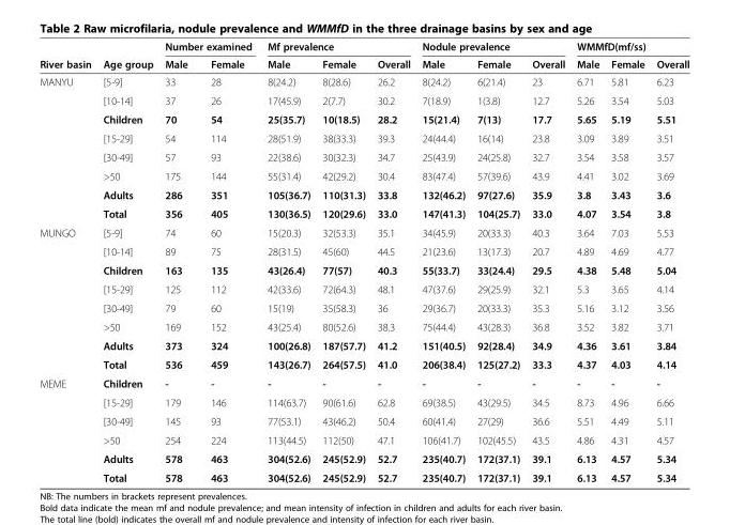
<table><thead><tr><td rowspan="2">River basin</td><td rowspan="2">Age group</td><td colspan="2">Number examined</td><td colspan="3">Mf prevalence</td><td colspan="3">Nodule prevalence</td><td colspan="3">WMMfD(mf/ss)</td></tr><tr><td>Male</td><td>Female</td><td>Male</td><td>Female</td><td>Overall</td><td>Male</td><td>Female</td><td>Overall</td><td>Male</td><td>Female</td><td>Overall</td></tr></thead><tbody><tr><td rowspan="8">MANYU</td><td>[5-9]</td><td>33</td><td>28</td><td>8(24.2)</td><td>8(28.6)</td><td>26.2</td><td>8(24.2)</td><td>6(21.4)</td><td>23</td><td>6.71</td><td>5.81</td><td>6.23</td></tr><tr><td>[10-14]</td><td>37</td><td>26</td><td>17(45.9)</td><td>2(7.7)</td><td>30.2</td><td>7(18.9)</td><td>1(3.8)</td><td>12.7</td><td>5.26</td><td>3.54</td><td>5.03</td></tr><tr><td>Children</td><td>70</td><td>54</td><td>25(35.7)</td><td>10(18.5)</td><td>28.2</td><td>15(21.4)</td><td>7(13)</td><td>17.7</td><td>5.65</td><td>5.19</td><td>5.51</td></tr><tr><td>[15-29]</td><td>54</td><td>114</td><td>28(51.9)</td><td>38(33.3)</td><td>39.3</td><td>24(44.4)</td><td>16(14)</td><td>23.8</td><td>3.09</td><td>3.89</td><td>3.51</td></tr><tr><td>[30-49]</td><td>57</td><td>93</td><td>22(38.6)</td><td>30(32.3)</td><td>34.7</td><td>25(43.9)</td><td>24(25.8)</td><td>32.7</td><td>3.54</td><td>3.58</td><td>3.57</td></tr><tr><td>&gt;50</td><td>175</td><td>144</td><td>55(31.4)</td><td>42(29.2)</td><td>30.4</td><td>83(47.4)</td><td>57(39.6)</td><td>43.9</td><td>4.41</td><td>3.02</td><td>3.69</td></tr><tr><td>Adults</td><td>286</td><td>351</td><td>105(36.7)</td><td>110(31.3)</td><td>33.8</td><td>132(46.2)</td><td>97(27.6)</td><td>35.9</td><td>3.8</td><td>3.43</td><td>3.6</td></tr><tr><td>Total</td><td>356</td><td>405</td><td>130(36.5)</td><td>120(29.6)</td><td>33.0</td><td>147(41.3)</td><td>104(25.7)</td><td>33.0</td><td>4.07</td><td>3.54</td><td>3.8</td></tr><tr><td rowspan="8">MUNGO</td><td>[5-9]</td><td>74</td><td>60</td><td>15(20.3)</td><td>32(53.3)</td><td>35.1</td><td>34(45.9)</td><td>20(33.3)</td><td>40.3</td><td>3.64</td><td>7.03</td><td>5.53</td></tr><tr><td>[10-14]</td><td>89</td><td>75</td><td>28(31.5)</td><td>45(60)</td><td>44.5</td><td>21(23.6)</td><td>13(17.3)</td><td>20.7</td><td>4.89</td><td>4.69</td><td>4.77</td></tr><tr><td>Children</td><td>163</td><td>135</td><td>43(26.4)</td><td>77(57)</td><td>40.3</td><td>55(33.7)</td><td>33(24.4)</td><td>29.5</td><td>4.38</td><td>5.48</td><td>5.04</td></tr><tr><td>[15-29]</td><td>125</td><td>112</td><td>42(33.6)</td><td>72(64.3)</td><td>48.1</td><td>47(37.6)</td><td>29(25.9)</td><td>32.1</td><td>5.3</td><td>3.65</td><td>4.14</td></tr><tr><td>[30-49]</td><td>79</td><td>60</td><td>15(19)</td><td>35(58.3)</td><td>36</td><td>29(36.7)</td><td>20(33.3)</td><td>35.3</td><td>5.16</td><td>3.12</td><td>3.56</td></tr><tr><td>&gt;50</td><td>169</td><td>152</td><td>43(25.4)</td><td>80(52.6)</td><td>38.3</td><td>75(44.4)</td><td>43(28.3)</td><td>36.8</td><td>3.52</td><td>3.82</td><td>3.71</td></tr><tr><td>Adults</td><td>373</td><td>324</td><td>100(26.8)</td><td>187(57.7)</td><td>41.2</td><td>151(40.5)</td><td>92(28.4)</td><td>34.9</td><td>4.36</td><td>3.61</td><td>3.84</td></tr><tr><td>Total</td><td>536</td><td>459</td><td>143(26.7)</td><td>264(57.5)</td><td>41.0</td><td>206(38.4)</td><td>125(27.2)</td><td>33.3</td><td>4.37</td><td>4.03</td><td>4.14</td></tr><tr><td rowspan="6">MEME</td><td>Children</td><td>-</td><td>-</td><td>-</td><td>-</td><td>-</td><td>-</td><td>-</td><td>-</td><td>-</td><td>-</td><td>-</td></tr><tr><td>[15-29]</td><td>179</td><td>146</td><td>114(63.7)</td><td>90(61.6)</td><td>62.8</td><td>69(38.5)</td><td>43(29.5)</td><td>34.5</td><td>8.73</td><td>4.96</td><td>6.66</td></tr><tr><td>[30-49]</td><td>145</td><td>93</td><td>77(53.1)</td><td>43(46.2)</td><td>50.4</td><td>60(41.4)</td><td>27(29)</td><td>36.6</td><td>5.51</td><td>4.49</td><td>5.11</td></tr><tr><td>&gt;50</td><td>254</td><td>224</td><td>113(44.5)</td><td>112(50)</td><td>47.1</td><td>106(41.7)</td><td>102(45.5)</td><td>43.5</td><td>4.86</td><td>4.31</td><td>4.57</td></tr><tr><td>Adults</td><td>578</td><td>463</td><td>304(52.6)</td><td>245(52.9)</td><td>52.7</td><td>235(40.7)</td><td>172(37.1)</td><td>39.1</td><td>6.13</td><td>4.57</td><td>5.34</td></tr><tr><td>Total</td><td>578</td><td>463</td><td>304(52.6)</td><td>245(52.9)</td><td>52.7</td><td>235(40.7)</td><td>172(37.1)</td><td>39.1</td><td>6.13</td><td>4.57</td><td>5.34</td></tr></tbody></table>